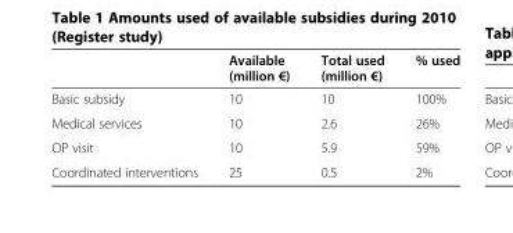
<table><thead><tr><td></td><td>Available (million €)</td><td>Total used (million €)</td><td>% used</td></tr></thead><tbody><tr><td>Basic subsidy</td><td>10</td><td>10</td><td>100%</td></tr><tr><td>Medical services</td><td>10</td><td>2.6</td><td>26%</td></tr><tr><td>OP visit</td><td>10</td><td>5.9</td><td>59%</td></tr><tr><td>Coordinated interventions</td><td>25</td><td>0.5</td><td>2%</td></tr></tbody></table>